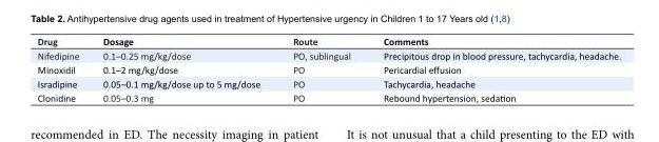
<table><tbody><tr><td>Drug</td><td>Dosage</td><td>Route</td><td>Comments</td></tr><tr><td>Nifedipine</td><td>0.1–0.25 mg/kg/dose</td><td>PO, sublingual</td><td>Precipitous drop in blood pressure, tachycardia, headache.</td></tr><tr><td>Minoxidil</td><td>0.1–2 mg/kg/dose</td><td>PO</td><td>Pericardial effusion</td></tr><tr><td>Isradipine</td><td>0.05–0.1 mg/kg/dose up to 5 mg/dose</td><td>PO</td><td>Tachycardia, headache</td></tr><tr><td>Clonidine</td><td>0.05–0.3 mg</td><td>PO</td><td>Rebound hypertension, sedation</td></tr></tbody></table>